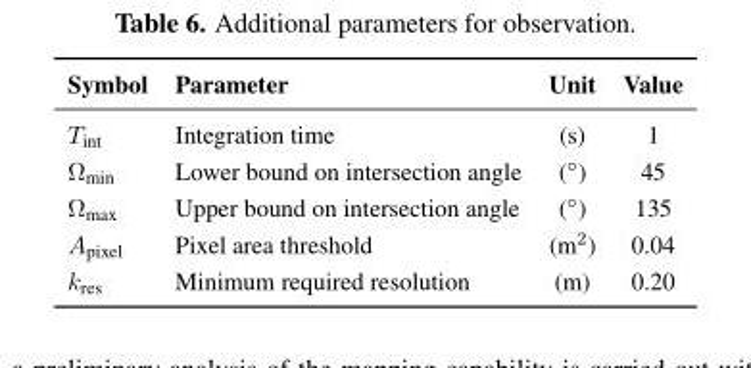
<table><thead><tr><td>Symbol</td><td>Parameter</td><td>Unit</td><td>Value</td></tr></thead><tbody><tr><td>T<sub>int</sub></td><td>Integration time</td><td>(s)</td><td>1</td></tr><tr><td>Ω<sub>min</sub></td><td>Lower bound on intersection angle</td><td>(◦)</td><td>45</td></tr><tr><td>Ω<sub>max</sub></td><td>Upper bound on intersection angle</td><td>(◦)</td><td>135</td></tr><tr><td>A<sub>pixel</sub></td><td>Pixel area threshold</td><td>(m<sup>2</sup>)</td><td>0.04</td></tr><tr><td>k<sub>res</sub></td><td>Minimum required resolution</td><td>(m)</td><td>0.20</td></tr></tbody></table>